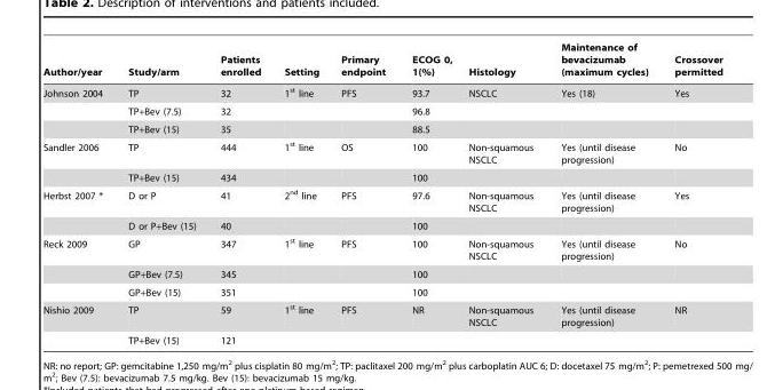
<table><thead><tr><td>Author/year</td><td>Study/arm</td><td>Patients enrolled</td><td>Setting</td><td>Primary endpoint</td><td>ECOG 0, 1(%)</td><td>Histology</td><td>Maintenance of bevacizumab (maximum cycles)</td><td>Crossover permitted</td></tr></thead><tbody><tr><td rowspan="3">Johnson 2004</td><td>TP</td><td>32</td><td>1<sup>st</sup> line</td><td>PFS</td><td>93.7</td><td>NSCLC</td><td>Yes (18)</td><td>Yes</td></tr><tr><td>TP+Bev (7.5)</td><td>32</td><td></td><td></td><td>96.8</td><td></td><td></td><td></td></tr><tr><td>TP+Bev (15)</td><td>35</td><td></td><td></td><td>88.5</td><td></td><td></td><td></td></tr><tr><td rowspan="2">Sandler 2006</td><td>TP</td><td>444</td><td>1<sup>st</sup> line</td><td>OS</td><td>100</td><td>Non-squamous NSCLC</td><td>Yes (until disease progression)</td><td>No</td></tr><tr><td>TP+Bev (15)</td><td>434</td><td></td><td></td><td>100</td><td></td><td></td><td></td></tr><tr><td rowspan="2">Herbst 2007 *</td><td>D or P</td><td>41</td><td>2<sup>nd</sup> line</td><td>PFS</td><td>97.6</td><td>Non-squamous NSCLC</td><td>Yes (until disease progression)</td><td>Yes</td></tr><tr><td>D or P+Bev (15)</td><td>40</td><td></td><td></td><td>100</td><td></td><td></td><td></td></tr><tr><td rowspan="3">Reck 2009</td><td>GP</td><td>347</td><td>1<sup>st</sup> line</td><td>PFS</td><td>100</td><td>Non-squamous NSCLC</td><td>Yes (until disease progression)</td><td>No</td></tr><tr><td>GP+Bev (7.5)</td><td>345</td><td></td><td></td><td>100</td><td></td><td></td><td></td></tr><tr><td>GP+Bev (15)</td><td>351</td><td></td><td></td><td>100</td><td></td><td></td><td></td></tr><tr><td rowspan="2">Nishio 2009</td><td>TP</td><td>59</td><td>1<sup>st</sup> line</td><td>PFS</td><td>NR</td><td>Non-squamous NSCLC</td><td>Yes (until disease progression)</td><td>NR</td></tr><tr><td>TP+Bev (15)</td><td>121</td><td></td><td></td><td></td><td></td><td></td><td></td></tr></tbody></table>